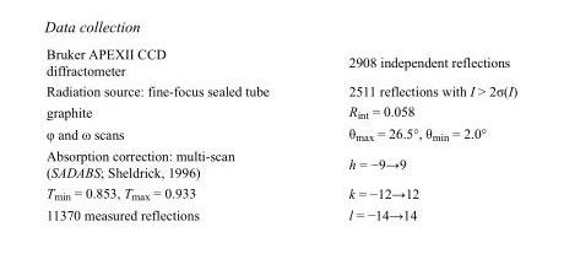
<table><tbody><tr><td>Bruker APEXII CCD diffractometer</td><td>2908 independent reflections</td></tr><tr><td>Radiation source: fine-focus sealed tube</td><td>2511 reflections with I &gt; 2σ(I)</td></tr><tr><td>graphite</td><td>R<sub>int</sub> = 0.058</td></tr><tr><td>φ and ω scans</td><td>θ<sub>max</sub> = 26.5°, θ<sub>min</sub> = 2.0°</td></tr><tr><td>Absorption correction: multi-scan (SADABS; Sheldrick, 1996)</td><td>h = −9→9</td></tr><tr><td>T<sub>min</sub> = 0.853, T<sub>max</sub> = 0.933</td><td>k = −12→12</td></tr><tr><td>11370 measured reflections</td><td>l = −14→14</td></tr></tbody></table>